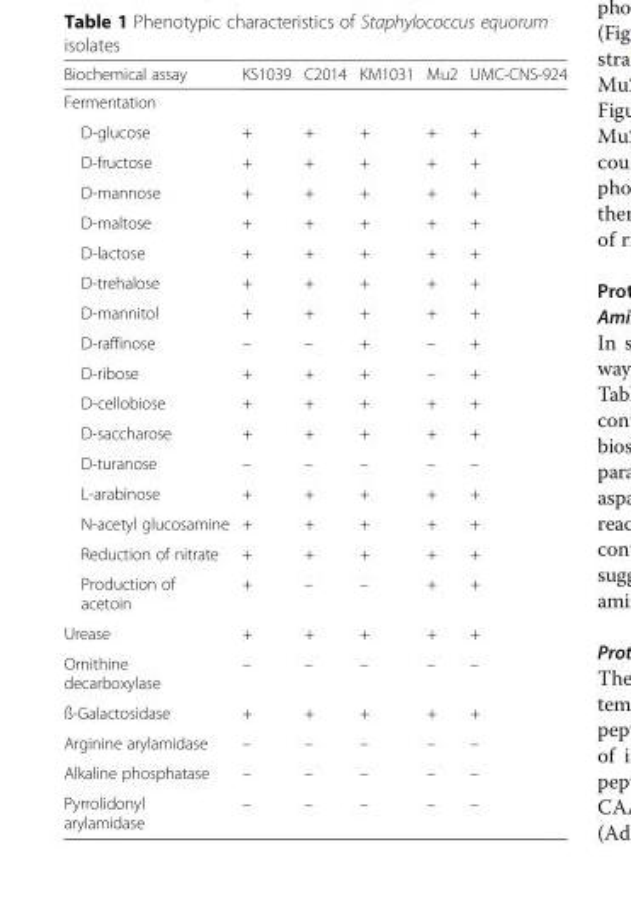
<table><thead><tr><td>Biochemical assay</td><td>KS1039</td><td>C2014</td><td>KM1031</td><td>Mu2</td><td>UMC-CNS-924</td></tr></thead><tbody><tr><td colspan="6">Fermentation</td></tr><tr><td>D-glucose</td><td>+</td><td>+</td><td>+</td><td>+</td><td>+</td></tr><tr><td>D-fructose</td><td>+</td><td>+</td><td>+</td><td>+</td><td>+</td></tr><tr><td>D-mannose</td><td>+</td><td>+</td><td>+</td><td>+</td><td>+</td></tr><tr><td>D-maltose</td><td>+</td><td>+</td><td>+</td><td>+</td><td>+</td></tr><tr><td>D-lactose</td><td>+</td><td>+</td><td>+</td><td>+</td><td>+</td></tr><tr><td>D-trehalose</td><td>+</td><td>+</td><td>+</td><td>+</td><td>+</td></tr><tr><td>D-mannitol</td><td>+</td><td>+</td><td>+</td><td>+</td><td>+</td></tr><tr><td>D-raffinose</td><td>–</td><td>–</td><td>+</td><td>–</td><td>+</td></tr><tr><td>D-ribose</td><td>+</td><td>+</td><td>+</td><td>–</td><td>+</td></tr><tr><td>D-cellobiose</td><td>+</td><td>+</td><td>+</td><td>+</td><td>+</td></tr><tr><td>D-saccharose</td><td>+</td><td>+</td><td>+</td><td>+</td><td>+</td></tr><tr><td>D-turanose</td><td>–</td><td>–</td><td>–</td><td>–</td><td>–</td></tr><tr><td>L-arabinose</td><td>+</td><td>+</td><td>+</td><td>+</td><td>+</td></tr><tr><td>N-acetyl glucosamine</td><td>+</td><td>+</td><td>+</td><td>+</td><td>+</td></tr><tr><td>Reduction of nitrate</td><td>+</td><td>+</td><td>+</td><td>+</td><td>+</td></tr><tr><td>Production of acetoin</td><td>+</td><td>–</td><td>–</td><td>+</td><td>+</td></tr><tr><td>Urease</td><td>+</td><td>+</td><td>+</td><td>+</td><td>+</td></tr><tr><td>Ornithine decarboxylase</td><td>–</td><td>–</td><td>–</td><td>–</td><td>–</td></tr><tr><td>ß-Galactosidase</td><td>+</td><td>+</td><td>+</td><td>+</td><td>+</td></tr><tr><td>Arginine arylamidase</td><td>–</td><td>–</td><td>–</td><td>–</td><td>–</td></tr><tr><td>Alkaline phosphatase</td><td>–</td><td>–</td><td>–</td><td>–</td><td>–</td></tr><tr><td>Pyrrolidonyl arylamidase</td><td>–</td><td>–</td><td>–</td><td>–</td><td>–</td></tr></tbody></table>